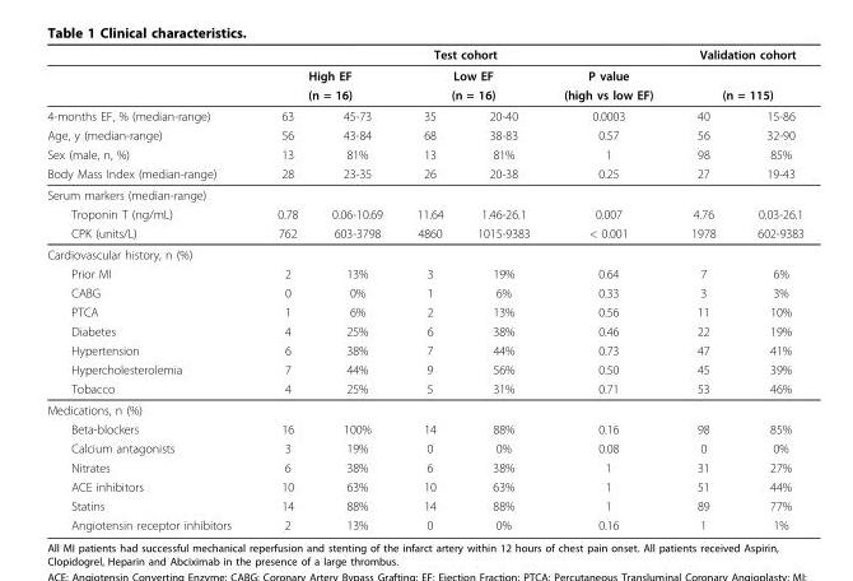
<table><thead><tr><td rowspan="4">4-months EF, % (median-range)</td><td colspan="5">Test cohort</td><td colspan="2">Validation cohort</td></tr><tr><td rowspan="2" colspan="2">High EF (n = 16)</td><td rowspan="2" colspan="2">Low EF (n = 16)</td><td rowspan="3">P value (high vs low EF) 0.0003</td><td></td><td></td></tr><tr><td colspan="2">(n = 115)</td></tr><tr><td>63</td><td>45-73</td><td>35</td><td>20-40</td><td>40</td><td>15-86</td></tr></thead><tbody><tr><td>Age, y (median-range)</td><td>56</td><td>43-84</td><td>68</td><td>38-83</td><td>0.57</td><td>56</td><td>32-90</td></tr><tr><td>Sex (male, n, %)</td><td>13</td><td>81%</td><td>13</td><td>81%</td><td>1</td><td>98</td><td>85%</td></tr><tr><td>Body Mass Index (median-range)</td><td>28</td><td>23-35</td><td>26</td><td>20-38</td><td>0.25</td><td>27</td><td>19-43</td></tr><tr><td colspan="8">Serum markers (median-range)</td></tr><tr><td>Troponin T (ng/mL)</td><td>0.78</td><td>0.06-10.69</td><td>11.64</td><td>1.46-26.1</td><td>0.007</td><td>4.76</td><td>0.03-26.1</td></tr><tr><td>CPK (units/L)</td><td>762</td><td>603-3798</td><td>4860</td><td>1015-9383</td><td>&lt; 0.001</td><td>1978</td><td>602-9383</td></tr><tr><td colspan="8">Cardiovascular history, n (%)</td></tr><tr><td>Prior MI</td><td>2</td><td>13%</td><td>3</td><td>19%</td><td>0.64</td><td>7</td><td>6%</td></tr><tr><td>CABG</td><td>0</td><td>0%</td><td>1</td><td>6%</td><td>0.33</td><td>3</td><td>3%</td></tr><tr><td>PTCA</td><td>1</td><td>6%</td><td>2</td><td>13%</td><td>0.56</td><td>11</td><td>10%</td></tr><tr><td>Diabetes</td><td>4</td><td>25%</td><td>6</td><td>38%</td><td>0.46</td><td>22</td><td>19%</td></tr><tr><td>Hypertension</td><td>6</td><td>38%</td><td>7</td><td>44%</td><td>0.73</td><td>47</td><td>41%</td></tr><tr><td>Hypercholesterolemia</td><td>7</td><td>44%</td><td>9</td><td>56%</td><td>0.50</td><td>45</td><td>39%</td></tr><tr><td>Tobacco</td><td>4</td><td>25%</td><td>5</td><td>31%</td><td>0.71</td><td>53</td><td>46%</td></tr><tr><td colspan="8">Medications, n (%)</td></tr><tr><td>Beta-blockers</td><td>16</td><td>100%</td><td>14</td><td>88%</td><td>0.16</td><td>98</td><td>85%</td></tr><tr><td>Calcium antagonists</td><td>3</td><td>19%</td><td>0</td><td>0%</td><td>0.08</td><td>0</td><td>0%</td></tr><tr><td>Nitrates</td><td>6</td><td>38%</td><td>6</td><td>38%</td><td>1</td><td>31</td><td>27%</td></tr><tr><td>ACE inhibitors</td><td>10</td><td>63%</td><td>10</td><td>63%</td><td>1</td><td>51</td><td>44%</td></tr><tr><td>Statins</td><td>14</td><td>88%</td><td>14</td><td>88%</td><td>1</td><td>89</td><td>77%</td></tr><tr><td>Angiotensin receptor inhibitors</td><td>2</td><td>13%</td><td>0</td><td>0%</td><td>0.16</td><td>1</td><td>1%</td></tr></tbody></table>